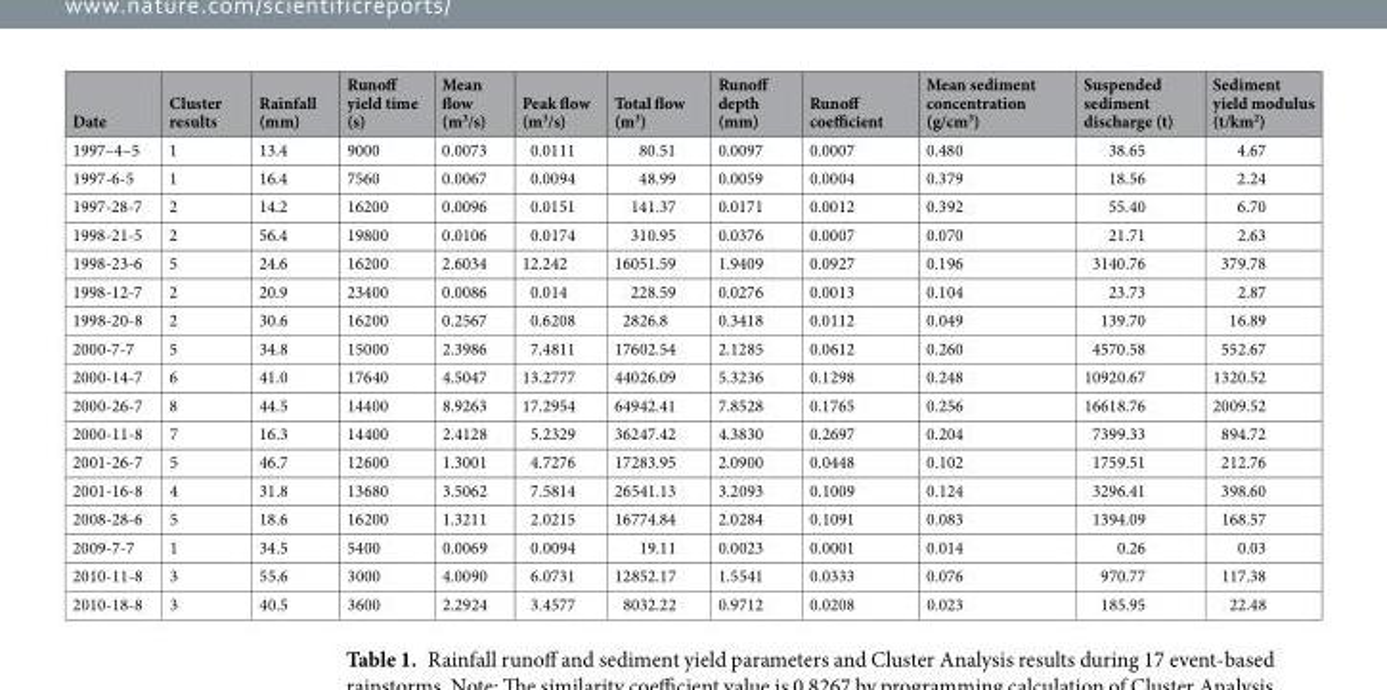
<table><thead><tr><td>Date</td><td>Cluster results</td><td>Rainfall (mm)</td><td>Runoff yield time (s)</td><td>Mean flow (m<sup>3</sup>/s)</td><td>Peak flow (m<sup>3</sup>/s)</td><td>Total flow (m<sup>3</sup>)</td><td>Runoff depth (mm)</td><td>Runoff coefficient</td><td>Mean sediment concentration (g/cm<sup>3</sup>)</td><td>Suspended sediment discharge (t)</td><td>Sediment yield modulus (t/km<sup>2</sup>)</td></tr></thead><tbody><tr><td>1997–4–5</td><td>1</td><td>13.4</td><td>9000</td><td>0.0073</td><td>0.0111</td><td>80.51</td><td>0.0097</td><td>0.0007</td><td>0.480</td><td>38.65</td><td>4.67</td></tr><tr><td>1997-6-5</td><td>1</td><td>16.4</td><td>7560</td><td>0.0067</td><td>0.0094</td><td>48.99</td><td>0.0059</td><td>0.0004</td><td>0.379</td><td>18.56</td><td>2.24</td></tr><tr><td>1997-28-7</td><td>2</td><td>14.2</td><td>16200</td><td>0.0096</td><td>0.0151</td><td>141.37</td><td>0.0171</td><td>0.0012</td><td>0.392</td><td>55.40</td><td>6.70</td></tr><tr><td>1998-21-5</td><td>2</td><td>56.4</td><td>19800</td><td>0.0106</td><td>0.0174</td><td>310.95</td><td>0.0376</td><td>0.0007</td><td>0.070</td><td>21.71</td><td>2.63</td></tr><tr><td>1998-23-6</td><td>5</td><td>24.6</td><td>16200</td><td>2.6034</td><td>12.242</td><td>16051.59</td><td>1.9409</td><td>0.0927</td><td>0.196</td><td>3140.76</td><td>379.78</td></tr><tr><td>1998-12-7</td><td>2</td><td>20.9</td><td>23400</td><td>0.0086</td><td>0.014</td><td>228.59</td><td>0.0276</td><td>0.0013</td><td>0.104</td><td>23.73</td><td>2.87</td></tr><tr><td>1998-20-8</td><td>2</td><td>30.6</td><td>16200</td><td>0.2567</td><td>0.6208</td><td>2826.8</td><td>0.3418</td><td>0.0112</td><td>0.049</td><td>139.70</td><td>16.89</td></tr><tr><td>2000-7-7</td><td>5</td><td>34.8</td><td>15000</td><td>2.3986</td><td>7.4811</td><td>17602.54</td><td>2.1285</td><td>0.0612</td><td>0.260</td><td>4570.58</td><td>552.67</td></tr><tr><td>2000-14-7</td><td>6</td><td>41.0</td><td>17640</td><td>4.5047</td><td>13.2777</td><td>44026.09</td><td>5.3236</td><td>0.1298</td><td>0.248</td><td>10920.67</td><td>1320.52</td></tr><tr><td>2000-26-7</td><td>8</td><td>44.5</td><td>14400</td><td>8.9263</td><td>17.2954</td><td>64942.41</td><td>7.8528</td><td>0.1765</td><td>0.256</td><td>16618.76</td><td>2009.52</td></tr><tr><td>2000-11-8</td><td>7</td><td>16.3</td><td>14400</td><td>2.4128</td><td>5.2329</td><td>36247.42</td><td>4.3830</td><td>0.2697</td><td>0.204</td><td>7399.33</td><td>894.72</td></tr><tr><td>2001-26-7</td><td>5</td><td>46.7</td><td>12600</td><td>1.3001</td><td>4.7276</td><td>17283.95</td><td>2.0900</td><td>0.0448</td><td>0.102</td><td>1759.51</td><td>212.76</td></tr><tr><td>2001-16-8</td><td>4</td><td>31.8</td><td>13680</td><td>3.5062</td><td>7.5814</td><td>26541.13</td><td>3.2093</td><td>0.1009</td><td>0.124</td><td>3296.41</td><td>398.60</td></tr><tr><td>2008-28-6</td><td>5</td><td>18.6</td><td>16200</td><td>1.3211</td><td>2.0215</td><td>16774.84</td><td>2.0284</td><td>0.1091</td><td>0.083</td><td>1394.09</td><td>168.57</td></tr><tr><td>2009-7-7</td><td>1</td><td>34.5</td><td>5400</td><td>0.0069</td><td>0.0094</td><td>19.11</td><td>0.0023</td><td>0.0001</td><td>0.014</td><td>0.26</td><td>0.03</td></tr><tr><td>2010-11-8</td><td>3</td><td>55.6</td><td>3000</td><td>4.0090</td><td>6.0731</td><td>12852.17</td><td>1.5541</td><td>0.0333</td><td>0.076</td><td>970.77</td><td>117.38</td></tr><tr><td>2010-18-8</td><td>3</td><td>40.5</td><td>3600</td><td>2.2924</td><td>3.4577</td><td>8032.22</td><td>0.9712</td><td>0.0208</td><td>0.023</td><td>185.95</td><td>22.48</td></tr></tbody></table>